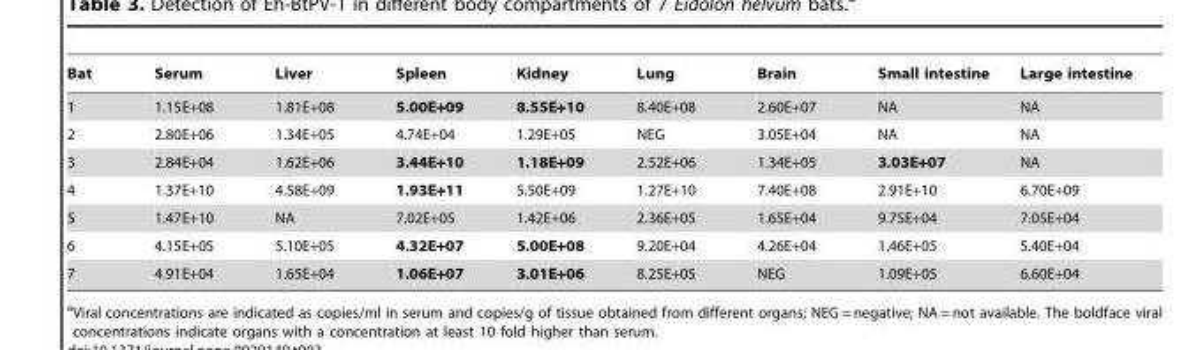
<table><thead><tr><td>Bat</td><td>Serum</td><td>Liver</td><td>Spleen</td><td>Kidney</td><td>Lung</td><td>Brain</td><td>Small intestine</td><td>Large intestine</td></tr></thead><tbody><tr><td>1</td><td>1.15E+08</td><td>1.81E+08</td><td>5.00E+09</td><td>8.55E+10</td><td>8.40E+08</td><td>2.60E+07</td><td>NA</td><td>NA</td></tr><tr><td>2</td><td>2.80E+06</td><td>1.34E+05</td><td>4.74E+04</td><td>1.29E+05</td><td>NEG</td><td>3.05E+04</td><td>NA</td><td>NA</td></tr><tr><td>3</td><td>2.84E+04</td><td>1.62E+06</td><td>3.44E+10</td><td>1.18E+09</td><td>2.52E+06</td><td>1.34E+05</td><td>3.03E+07</td><td>NA</td></tr><tr><td>4</td><td>1.37E+10</td><td>4.58E+09</td><td>1.93E+11</td><td>5.50E+09</td><td>1.27E+10</td><td>7.40E+08</td><td>2.91E+10</td><td>6.70E+09</td></tr><tr><td>5</td><td>1.47E+10</td><td>NA</td><td>7.02E+05</td><td>1.42E+06</td><td>2.36E+05</td><td>1.65E+04</td><td>9.75E+04</td><td>7.05E+04</td></tr><tr><td>6</td><td>4.15E+05</td><td>5.10E+05</td><td>4.32E+07</td><td>5.00E+08</td><td>9.20E+04</td><td>4.26E+04</td><td>1.46E+05</td><td>5.40E+04</td></tr><tr><td>7</td><td>4.91E+04</td><td>1.65E+04</td><td>1.06E+07</td><td>3.01E+06</td><td>8.25E+05</td><td>NEG</td><td>1.09E+05</td><td>6.60E+04</td></tr></tbody></table>